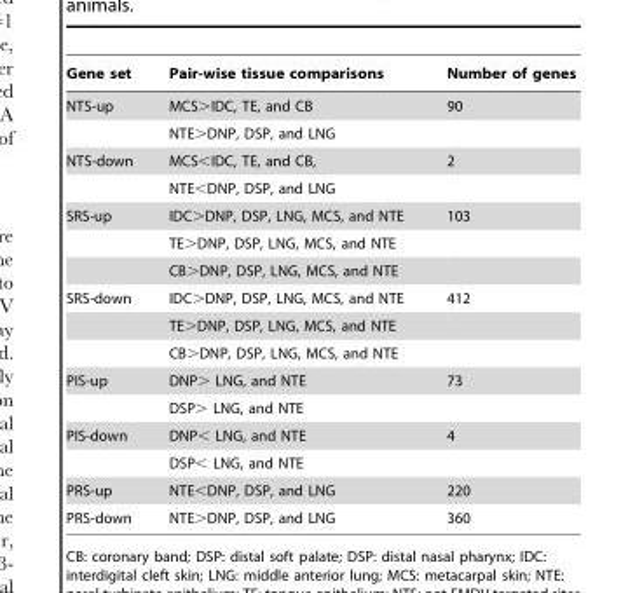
<table><thead><tr><td>Gene set</td><td>Pair-wise tissue comparisons</td><td>Number of genes</td></tr></thead><tbody><tr><td rowspan="2">NTS-up</td><td>MCS&gt;IDC, TE, and CB</td><td>90</td></tr><tr><td>NTE&gt;DNP, DSP, and LNG</td><td></td></tr><tr><td rowspan="2">NTS-down</td><td>MCS&lt;IDC, TE, and CB,</td><td>2</td></tr><tr><td>NTE&lt;DNP, DSP, and LNG</td><td></td></tr><tr><td rowspan="3">SRS-up</td><td>IDC&gt;DNP, DSP, LNG, MCS, and NTE</td><td>103</td></tr><tr><td>TE&gt;DNP, DSP, LNG, MCS, and NTE</td><td></td></tr><tr><td>CB&gt;DNP, DSP, LNG, MCS, and NTE</td><td></td></tr><tr><td rowspan="3">SRS-down</td><td>IDC&gt;DNP, DSP, LNG, MCS, and NTE</td><td>412</td></tr><tr><td>TE&gt;DNP, DSP, LNG, MCS, and NTE</td><td></td></tr><tr><td>CB&gt;DNP, DSP, LNG, MCS, and NTE</td><td></td></tr><tr><td rowspan="2">PIS-up</td><td>DNP&gt; LNG, and NTE</td><td>73</td></tr><tr><td>DSP&gt; LNG, and NTE</td><td></td></tr><tr><td rowspan="2">PIS-down</td><td>DNP&lt; LNG, and NTE</td><td>4</td></tr><tr><td>DSP&lt; LNG, and NTE</td><td></td></tr><tr><td>PRS-up</td><td>NTE&lt;DNP, DSP, and LNG</td><td>220</td></tr><tr><td>PRS-down</td><td>NTE&gt;DNP, DSP, and LNG</td><td>360</td></tr></tbody></table>